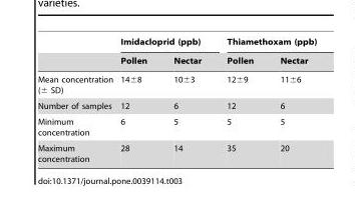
<table><thead><tr><td rowspan="2"></td><td colspan="2">Imidacloprid (ppb)</td><td colspan="2">Thiamethoxam (ppb)</td></tr><tr><td>Pollen</td><td>Nectar</td><td>Pollen</td><td>Nectar</td></tr></thead><tbody><tr><td>Mean concentration (± SD)</td><td>14±8</td><td>10±3</td><td>12±9</td><td>11±6</td></tr><tr><td>Number of samples</td><td>12</td><td>6</td><td>12</td><td>6</td></tr><tr><td>Minimum concentration</td><td>6</td><td>5</td><td>5</td><td>5</td></tr><tr><td>Maximum concentration</td><td>28</td><td>14</td><td>35</td><td>20</td></tr></tbody></table>